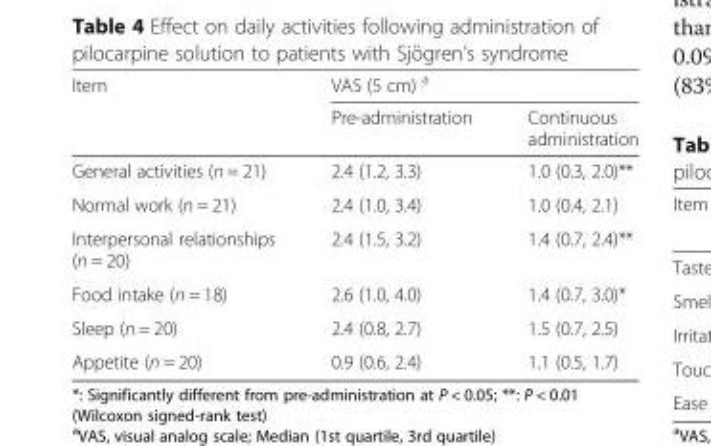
<table><thead><tr><td rowspan="2">Item</td><td colspan="2">VAS (5 cm) <sup>a</sup></td></tr><tr><td>Pre-administration</td><td>Continuous administration</td></tr></thead><tbody><tr><td>General activities (n = 21)</td><td>2.4 (1.2, 3.3)</td><td>1.0 (0.3, 2.0)**</td></tr><tr><td>Normal work (n = 21)</td><td>2.4 (1.0, 3.4)</td><td>1.0 (0.4, 2.1)</td></tr><tr><td>Interpersonal relationships (n = 20)</td><td>2.4 (1.5, 3.2)</td><td>1.4 (0.7, 2.4)**</td></tr><tr><td>Food intake (n = 18)</td><td>2.6 (1.0, 4.0)</td><td>1.4 (0.7, 3.0)*</td></tr><tr><td>Sleep (n = 20)</td><td>2.4 (0.8, 2.7)</td><td>1.5 (0.7, 2.5)</td></tr><tr><td>Appetite (n = 20)</td><td>0.9 (0.6, 2.4)</td><td>1.1 (0.5, 1.7)</td></tr></tbody></table>